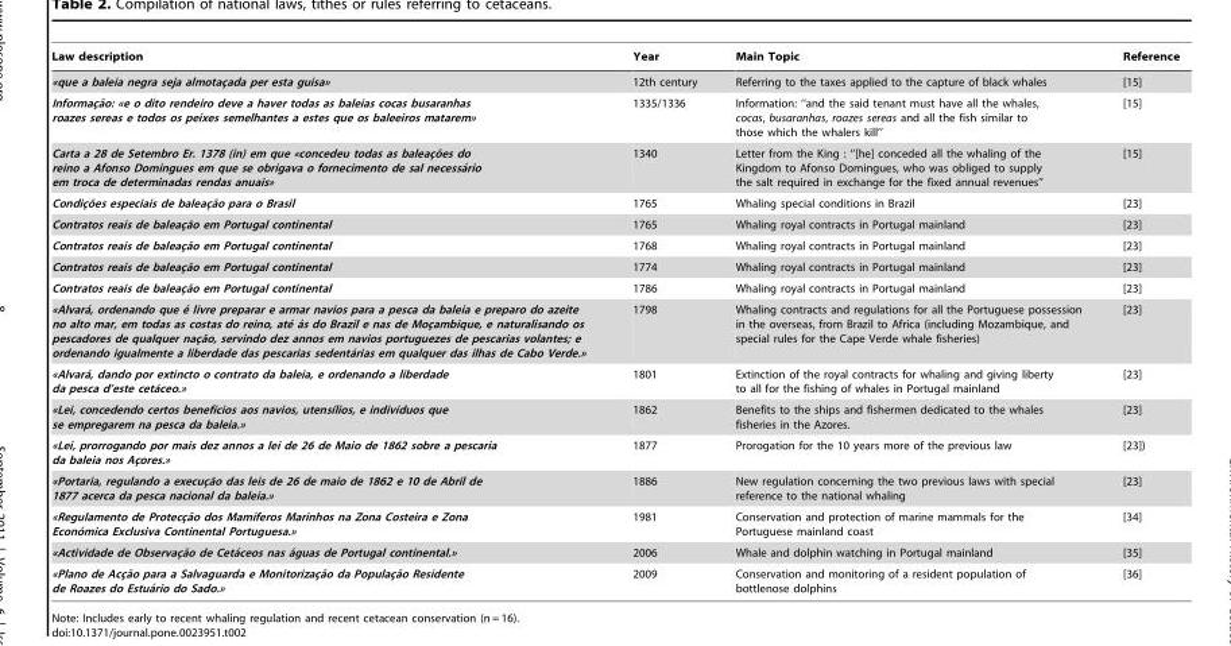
<table><thead><tr><td>Law description</td><td>Year</td><td>Main Topic</td><td>Reference</td></tr></thead><tbody><tr><td>«que a baleia negra seja almotac¸ada per esta guisa»</td><td>12th century</td><td>Referring to the taxes applied to the capture of black whales</td><td>[15]</td></tr><tr><td>Informac¸a˜o: «e o dito rendeiro deve a haver todas as baleias cocas busaranhas roazes sereas e todos os peixes semelhantes a estes que os baleeiros matarem»</td><td>1335/1336</td><td>Information: ‘‘and the said tenant must have all the whales, cocas, busaranhas, roazes sereas and all the fish similar to those which the whalers kill’’</td><td>[15]</td></tr><tr><td>Carta a 28 de Setembro Er. 1378 (in) em que «concedeu todas as baleac¸o˜es do reino a Afonso Domingues em que se obrigava o fornecimento de sal necessa´rio em troca de determinadas rendas anuais»</td><td>1340</td><td>Letter from the King : ‘‘[he] conceded all the whaling of the Kingdom to Afonso Domingues, who was obliged to supply the salt required in exchange for the fixed annual revenues’’</td><td>[15]</td></tr><tr><td>Condic¸o˜es especiais de baleac¸a˜o para o Brasil</td><td>1765</td><td>Whaling special conditions in Brazil</td><td>[23]</td></tr><tr><td>Contratos reais de baleac¸a˜o em Portugal continental</td><td>1765</td><td>Whaling royal contracts in Portugal mainland</td><td>[23]</td></tr><tr><td>Contratos reais de baleac¸a˜o em Portugal continental</td><td>1768</td><td>Whaling royal contracts in Portugal mainland</td><td>[23]</td></tr><tr><td>Contratos reais de baleac¸a˜o em Portugal continental</td><td>1774</td><td>Whaling royal contracts in Portugal mainland</td><td>[23]</td></tr><tr><td>Contratos reais de baleac¸a˜o em Portugal continental</td><td>1786</td><td>Whaling royal contracts in Portugal mainland</td><td>[23]</td></tr><tr><td>«Alvara´, ordenando que e´ livre preparar e armar navios para a pesca da baleia e preparo do azeite no alto mar, em todas as costas do reino, ate´ a´s do Brazil e nas de Moc¸ambique, e naturalisando os pescadores de qualquer nac¸a˜o, servindo dez annos em navios portuguezes de pescarias volantes; e ordenando igualmente a liberdade das pescarias sedenta´rias em qualquer das ilhas de Cabo Verde.»</td><td>1798</td><td>Whaling contracts and regulations for all the Portuguese possession in the overseas, from Brazil to Africa (including Mozambique, and special rules for the Cape Verde whale fisheries)</td><td>[23]</td></tr><tr><td>«Alvara´, dando por extincto o contrato da baleia, e ordenando a liberdade da pesca d’este ceta´ceo.»</td><td>1801</td><td>Extinction of the royal contracts for whaling and giving liberty to all for the fishing of whales in Portugal mainland</td><td>[23]</td></tr><tr><td>«Lei, concedendo certos benefı´cios aos navios, utensı´lios, e indivı´duos que se empregarem na pesca da baleia.»</td><td>1862</td><td>Benefits to the ships and fishermen dedicated to the whales fisheries in the Azores.</td><td>[23]</td></tr><tr><td>«Lei, prorrogando por mais dez annos a lei de 26 de Maio de 1862 sobre a pescaria da baleia nos Ac¸ores.»</td><td>1877</td><td>Prorogation for the 10 years more of the previous law</td><td>[23])</td></tr><tr><td>«Portaria, regulando a execuc¸a˜o das leis de 26 de maio de 1862 e 10 de Abril de 1877 acerca da pesca nacional da baleia.»</td><td>1886</td><td>New regulation concerning the two previous laws with special reference to the national whaling</td><td>[23]</td></tr><tr><td>«Regulamento de Protecc¸a˜o dos Mamı´feros Marinhos na Zona Costeira e Zona Econo´mica Exclusiva Continental Portuguesa.»</td><td>1981</td><td>Conservation and protection of marine mammals for the Portuguese mainland coast</td><td>[34]</td></tr><tr><td>«Actividade de Observac¸a˜o de Ceta´ceos nas a´guas de Portugal continental.»</td><td>2006</td><td>Whale and dolphin watching in Portugal mainland</td><td>[35]</td></tr><tr><td>«Plano de Acc¸a˜o para a Salvaguarda e Monitorizac¸a˜o da Populac¸a˜o Residente de Roazes do Estua´rio do Sado.»</td><td>2009</td><td>Conservation and monitoring of a resident population of bottlenose dolphins</td><td>[36]</td></tr></tbody></table>